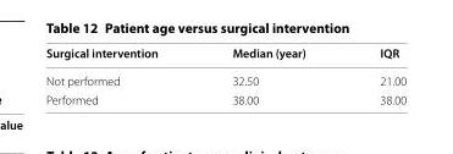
<table><thead><tr><td>Surgical intervention</td><td>Median (year)</td><td>IQR</td></tr></thead><tbody><tr><td>Not performed</td><td>32.50</td><td>21.00</td></tr><tr><td>Performed</td><td>38.00</td><td>38.00</td></tr></tbody></table>